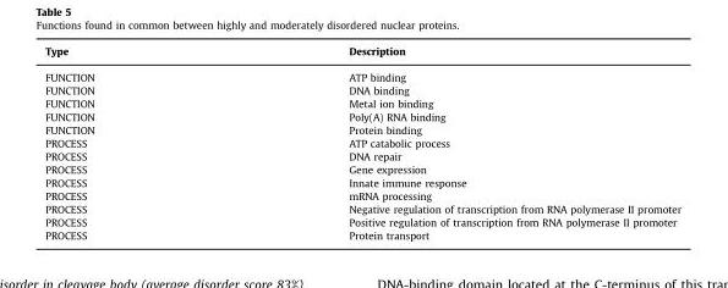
<table><thead><tr><td>Type</td><td>Description</td></tr></thead><tbody><tr><td>FUNCTION</td><td>ATP binding</td></tr><tr><td>FUNCTION</td><td>DNA binding</td></tr><tr><td>FUNCTION</td><td>Metal ion binding</td></tr><tr><td>FUNCTION</td><td>Poly(A) RNA binding</td></tr><tr><td>FUNCTION</td><td>Protein binding</td></tr><tr><td>PROCESS</td><td>ATP catabolic process</td></tr><tr><td>PROCESS</td><td>DNA repair</td></tr><tr><td>PROCESS</td><td>Gene expression</td></tr><tr><td>PROCESS</td><td>Innate immune response</td></tr><tr><td>PROCESS</td><td>mRNA processing</td></tr><tr><td>PROCESS</td><td>Negative regulation of transcription from RNA polymerase II promoter</td></tr><tr><td>PROCESS</td><td>Positive regulation of transcription from RNA polymerase II promoter</td></tr><tr><td>PROCESS</td><td>Protein transport</td></tr></tbody></table>